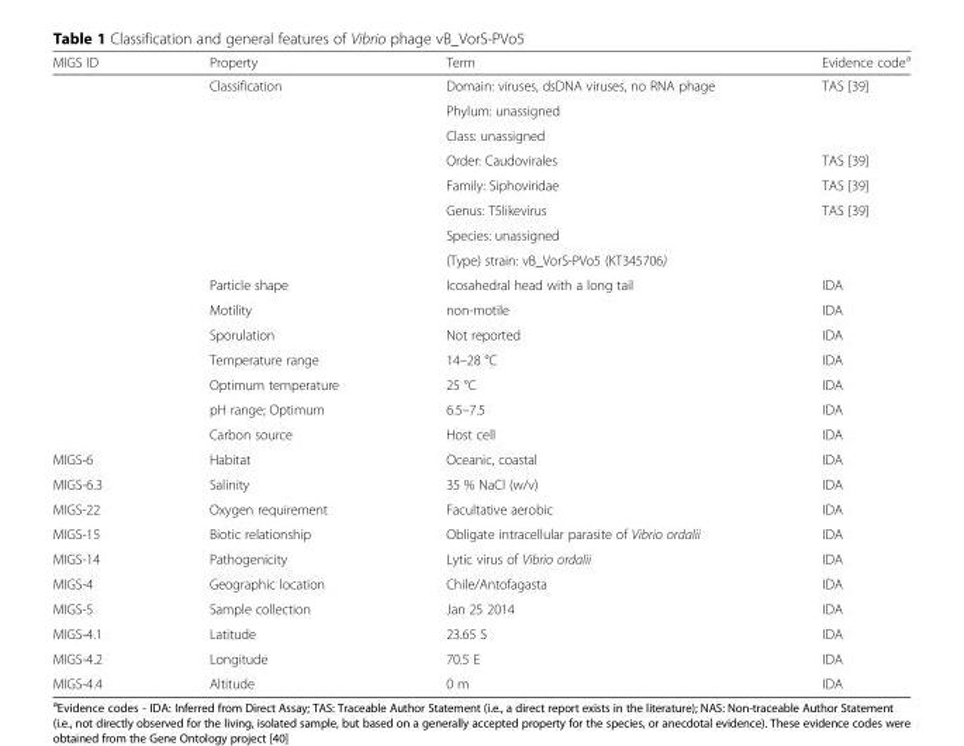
<table><thead><tr><td>MIGS ID</td><td>Property</td><td>Term</td><td>Evidence code<sup>a</sup></td></tr></thead><tbody><tr><td></td><td>Classification</td><td>Domain: viruses, dsDNA viruses, no RNA phage</td><td>TAS [39]</td></tr><tr><td></td><td></td><td>Phylum: unassigned</td><td></td></tr><tr><td></td><td></td><td>Class: unassigned</td><td></td></tr><tr><td></td><td></td><td>Order: Caudovirales</td><td>TAS [39]</td></tr><tr><td></td><td></td><td>Family: Siphoviridae</td><td>TAS [39]</td></tr><tr><td></td><td></td><td>Genus: T5likevirus</td><td>TAS [39]</td></tr><tr><td></td><td></td><td>Species: unassigned</td><td></td></tr><tr><td></td><td></td><td>(Type) strain: vB_VorS-PVo5 (KT345706)</td><td></td></tr><tr><td></td><td>Particle shape</td><td>Icosahedral head with a long tail</td><td>IDA</td></tr><tr><td></td><td>Motility</td><td>non-motile</td><td>IDA</td></tr><tr><td></td><td>Sporulation</td><td>Not reported</td><td>IDA</td></tr><tr><td></td><td>Temperature range</td><td>14–28 °C</td><td>IDA</td></tr><tr><td></td><td>Optimum temperature</td><td>25 °C</td><td>IDA</td></tr><tr><td></td><td>pH range; Optimum</td><td>6.5–7.5</td><td>IDA</td></tr><tr><td></td><td>Carbon source</td><td>Host cell</td><td>IDA</td></tr><tr><td>MIGS-6</td><td>Habitat</td><td>Oceanic, coastal</td><td>IDA</td></tr><tr><td>MIGS-6.3</td><td>Salinity</td><td>35 % NaCl (w/v)</td><td>IDA</td></tr><tr><td>MIGS-22</td><td>Oxygen requirement</td><td>Facultative aerobic</td><td>IDA</td></tr><tr><td>MIGS-15</td><td>Biotic relationship</td><td>Obligate intracellular parasite of Vibrio ordalii</td><td>IDA</td></tr><tr><td>MIGS-14</td><td>Pathogenicity</td><td>Lytic virus of Vibrio ordalii</td><td>IDA</td></tr><tr><td>MIGS-4</td><td>Geographic location</td><td>Chile/Antofagasta</td><td>IDA</td></tr><tr><td>MIGS-5</td><td>Sample collection</td><td>Jan 25 2014</td><td>IDA</td></tr><tr><td>MIGS-4.1</td><td>Latitude</td><td>23.65 S</td><td>IDA</td></tr><tr><td>MIGS-4.2</td><td>Longitude</td><td>70.5 E</td><td>IDA</td></tr><tr><td>MIGS-4.4</td><td>Altitude</td><td>0 m</td><td>IDA</td></tr></tbody></table>